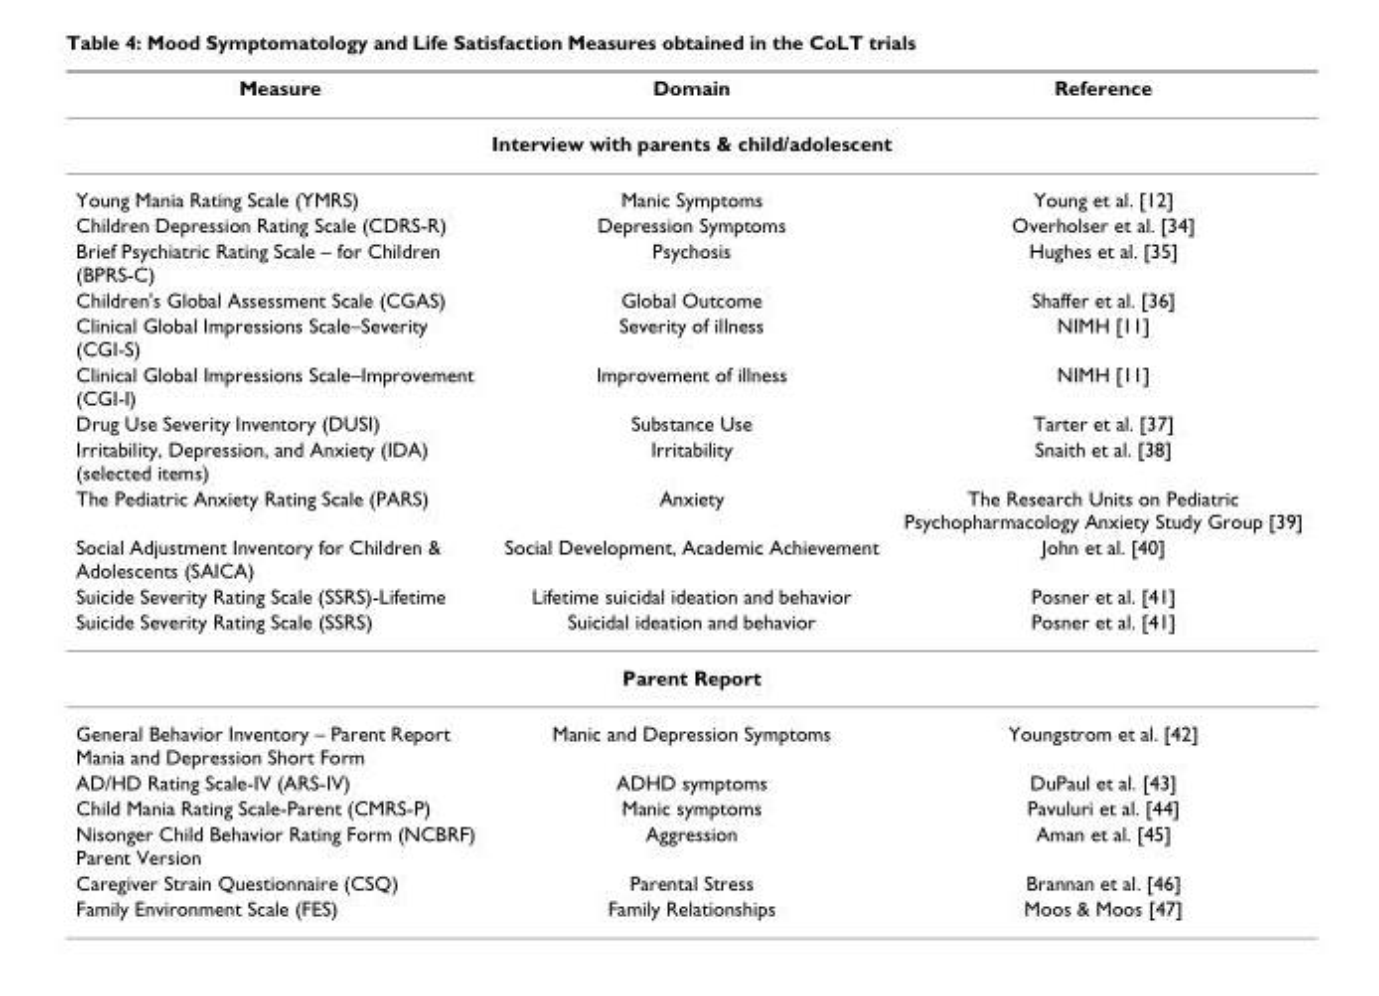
<table><thead><tr><td>Measure</td><td>Domain</td><td>Reference</td></tr></thead><tbody><tr><td colspan="3">Interview with parents &amp; child/adolescent</td></tr><tr><td>Young Mania Rating Scale (YMRS)</td><td>Manic Symptoms</td><td>Young et al. [12]</td></tr><tr><td>Children Depression Rating Scale (CDRS-R)</td><td>Depression Symptoms</td><td>Overholser et al. [34]</td></tr><tr><td>Brief Psychiatric Rating Scale – for Children (BPRS-C)</td><td>Psychosis</td><td>Hughes et al. [35]</td></tr><tr><td>Children&#x27;s Global Assessment Scale (CGAS)</td><td>Global Outcome</td><td>Shaffer et al. [36]</td></tr><tr><td>Clinical Global Impressions Scale–Severity (CGI-S)</td><td>Severity of illness</td><td>NIMH [11]</td></tr><tr><td>Clinical Global Impressions Scale–Improvement (CGI-I)</td><td>Improvement of illness</td><td>NIMH [11]</td></tr><tr><td>Drug Use Severity Inventory (DUSI)</td><td>Substance Use</td><td>Tarter et al. [37]</td></tr><tr><td>Irritability, Depression, and Anxiety (IDA) (selected items)</td><td>Irritability</td><td>Snaith et al. [38]</td></tr><tr><td>The Pediatric Anxiety Rating Scale (PARS)</td><td>Anxiety</td><td>The Research Units on Pediatric Psychopharmacology Anxiety Study Group [39]</td></tr><tr><td>Social Adjustment Inventory for Children &amp; Adolescents (SAICA)</td><td>Social Development, Academic Achievement</td><td>John et al. [40]</td></tr><tr><td>Suicide Severity Rating Scale (SSRS)-Lifetime</td><td>Lifetime suicidal ideation and behavior</td><td>Posner et al. [41]</td></tr><tr><td>Suicide Severity Rating Scale (SSRS)</td><td>Suicidal ideation and behavior</td><td>Posner et al. [41]</td></tr><tr><td colspan="3">Parent Report</td></tr><tr><td>General Behavior Inventory – Parent Report Mania and Depression Short Form</td><td>Manic and Depression Symptoms</td><td>Youngstrom et al. [42]</td></tr><tr><td>AD/HD Rating Scale-IV (ARS-IV)</td><td>ADHD symptoms</td><td>DuPaul et al. [43]</td></tr><tr><td>Child Mania Rating Scale-Parent (CMRS-P)</td><td>Manic symptoms</td><td>Pavuluri et al. [44]</td></tr><tr><td>Nisonger Child Behavior Rating Form (NCBRF) Parent Version</td><td>Aggression</td><td>Aman et al. [45]</td></tr><tr><td>Caregiver Strain Questionnaire (CSQ)</td><td>Parental Stress</td><td>Brannan et al. [46]</td></tr><tr><td>Family Environment Scale (FES)</td><td>Family Relationships</td><td>Moos &amp; Moos [47]</td></tr></tbody></table>